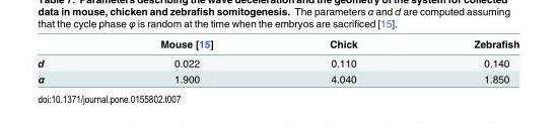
<table><thead><tr><td></td><td>Mouse [15]</td><td>Chick</td><td>Zebrafish</td></tr></thead><tbody><tr><td>d</td><td>0.022</td><td>0.110</td><td>0.140</td></tr><tr><td>α</td><td>1.900</td><td>4.040</td><td>1.850</td></tr></tbody></table>